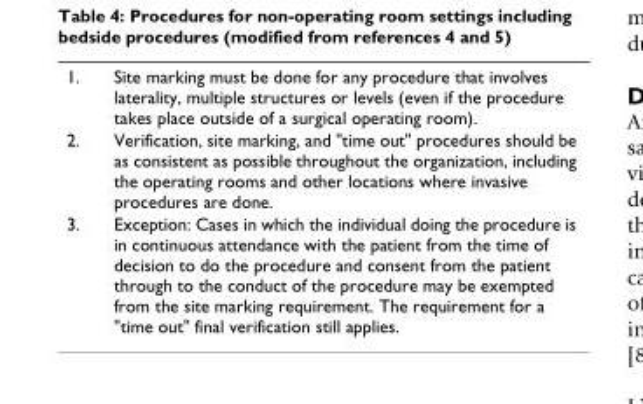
<table><tbody><tr><td>1.</td><td>Site marking must be done for any procedure that involves laterality, multiple structures or levels (even if the procedure takes place outside of a surgical operating room).</td></tr><tr><td>2.</td><td>Verification, site marking, and &quot;time out&quot; procedures should be as consistent as possible throughout the organization, including the operating rooms and other locations where invasive procedures are done.</td></tr><tr><td>3.</td><td>Exception: Cases in which the individual doing the procedure is in continuous attendance with the patient from the time of decision to do the procedure and consent from the patient through to the conduct of the procedure may be exempted from the site marking requirement. The requirement for a &quot;time out&quot; final verification still applies.</td></tr></tbody></table>